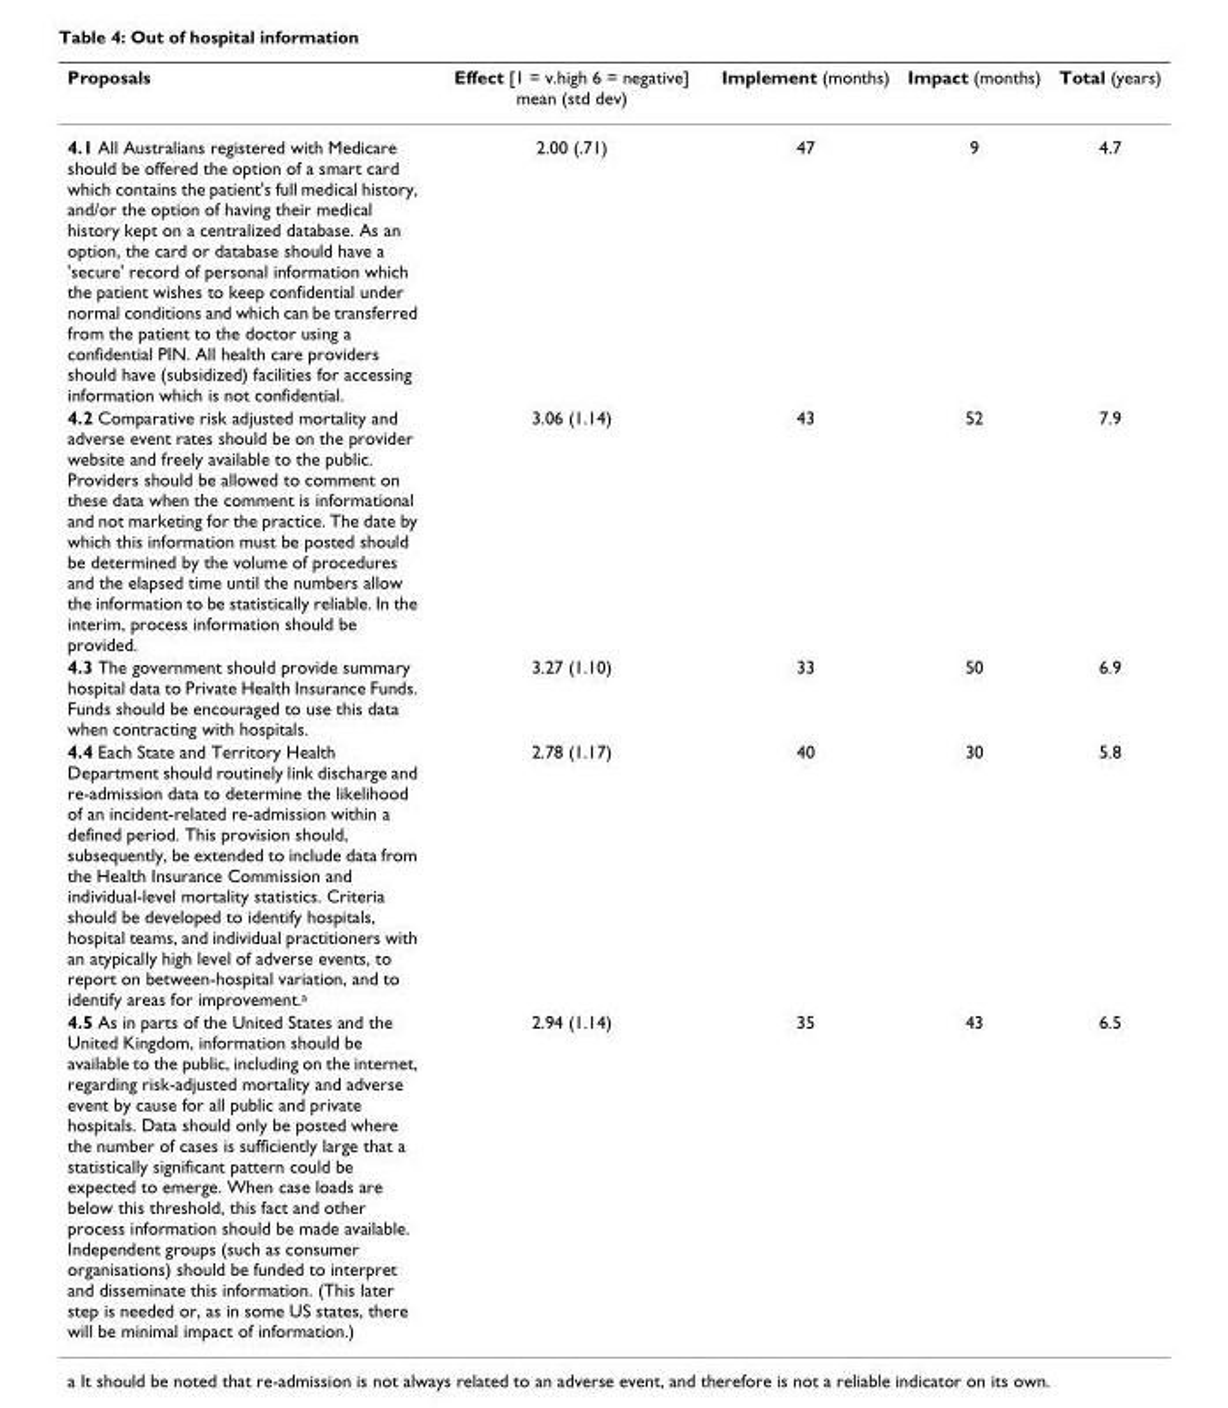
<table><thead><tr><td>Proposals</td><td>Effect [1 = v.high 6 = negative] mean (std dev)</td><td>Implement (months)</td><td>Impact (months)</td><td>Total (years)</td></tr></thead><tbody><tr><td>4.1 All Australians registered with Medicare should be offered the option of a smart card which contains the patient&#x27;s full medical history, and/or the option of having their medical history kept on a centralized database. As an option, the card or database should have a &#x27;secure&#x27; record of personal information which the patient wishes to keep confidential under normal conditions and which can be transferred from the patient to the doctor using a confidential PIN. All health care providers should have (subsidized) facilities for accessing information which is not confidential.</td><td>2.00 (.71)</td><td>47</td><td>9</td><td>4.7</td></tr><tr><td>4.2 Comparative risk adjusted mortality and adverse event rates should be on the provider website and freely available to the public. Providers should be allowed to comment on these data when the comment is informational and not marketing for the practice. The date by which this information must be posted should be determined by the volume of procedures and the elapsed time until the numbers allow the information to be statistically reliable. In the interim, process information should be provided.</td><td>3.06 (1.14)</td><td>43</td><td>52</td><td>7.9</td></tr><tr><td>4.3 The government should provide summary hospital data to Private Health Insurance Funds. Funds should be encouraged to use this data when contracting with hospitals.</td><td>3.27 (1.10)</td><td>33</td><td>50</td><td>6.9</td></tr><tr><td>4.4 Each State and Territory Health Department should routinely link discharge and re-admission data to determine the likelihood of an incident-related re-admission within a defined period. This provision should, subsequently, be extended to include data from the Health Insurance Commission and individual-level mortality statistics. Criteria should be developed to identify hospitals, hospital teams, and individual practitioners with an atypically high level of adverse events, to report on between-hospital variation, and to identify areas for improvement.<sup>a</sup></td><td>2.78 (1.17)</td><td>40</td><td>30</td><td>5.8</td></tr><tr><td>4.5 As in parts of the United States and the United Kingdom, information should be available to the public, including on the internet, regarding risk-adjusted mortality and adverse event by cause for all public and private hospitals. Data should only be posted where the number of cases is sufficiently large that a statistically significant pattern could be expected to emerge. When case loads are below this threshold, this fact and other process information should be made available. Independent groups (such as consumer organisations) should be funded to interpret and disseminate this information. (This later step is needed or, as in some US states, there will be minimal impact of information.)</td><td>2.94 (1.14)</td><td>35</td><td>43</td><td>6.5</td></tr></tbody></table>